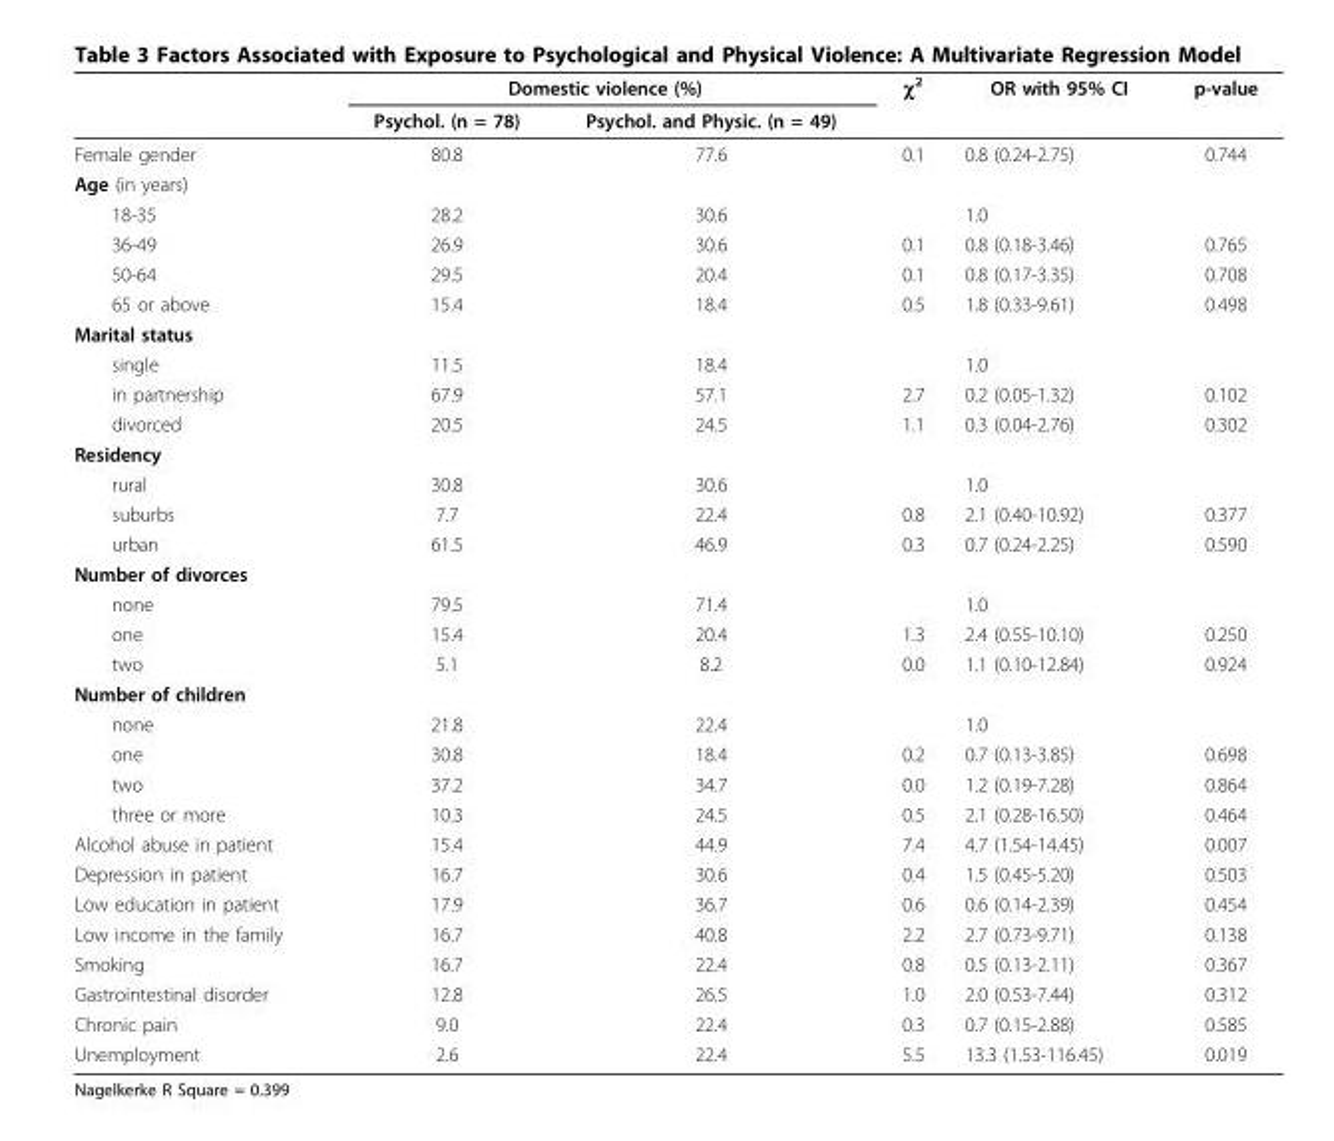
<table><thead><tr><td rowspan="2"></td><td colspan="2">Domestic violence (%)</td><td rowspan="2">χ<sup>2</sup></td><td rowspan="2">OR with 95% CI</td><td rowspan="2">p-value</td></tr><tr><td>Psychol. (n = 78)</td><td>Psychol. and Physic. (n = 49)</td></tr></thead><tbody><tr><td>Female gender</td><td>80.8</td><td>77.6</td><td>0.1</td><td>0.8 (0.24-2.75)</td><td>0.744</td></tr><tr><td colspan="6">Age (in years)</td></tr><tr><td>18-35</td><td>28.2</td><td>30.6</td><td></td><td>1.0</td><td></td></tr><tr><td>36-49</td><td>26.9</td><td>30.6</td><td>0.1</td><td>0.8 (0.18-3.46)</td><td>0.765</td></tr><tr><td>50-64</td><td>29.5</td><td>20.4</td><td>0.1</td><td>0.8 (0.17-3.35)</td><td>0.708</td></tr><tr><td>65 or above</td><td>15.4</td><td>18.4</td><td>0.5</td><td>1.8 (0.33-9.61)</td><td>0.498</td></tr><tr><td colspan="6">Marital status</td></tr><tr><td>single</td><td>11.5</td><td>18.4</td><td></td><td>1.0</td><td></td></tr><tr><td>in partnership</td><td>67.9</td><td>57.1</td><td>2.7</td><td>0.2 (0.05-1.32)</td><td>0.102</td></tr><tr><td>divorced</td><td>20.5</td><td>24.5</td><td>1.1</td><td>0.3 (0.04-2.76)</td><td>0.302</td></tr><tr><td colspan="6">Residency</td></tr><tr><td>rural</td><td>30.8</td><td>30.6</td><td></td><td>1.0</td><td></td></tr><tr><td>suburbs</td><td>7.7</td><td>22.4</td><td>0.8</td><td>2.1 (0.40-10.92)</td><td>0.377</td></tr><tr><td>urban</td><td>61.5</td><td>46.9</td><td>0.3</td><td>0.7 (0.24-2.25)</td><td>0.590</td></tr><tr><td colspan="6">Number of divorces</td></tr><tr><td>none</td><td>79.5</td><td>71.4</td><td></td><td>1.0</td><td></td></tr><tr><td>one</td><td>15.4</td><td>20.4</td><td>1.3</td><td>2.4 (0.55-10.10)</td><td>0.250</td></tr><tr><td>two</td><td>5.1</td><td>8.2</td><td>0.0</td><td>1.1 (0.10-12.84)</td><td>0.924</td></tr><tr><td colspan="6">Number of children</td></tr><tr><td>none</td><td>21.8</td><td>22.4</td><td></td><td>1.0</td><td></td></tr><tr><td>one</td><td>30.8</td><td>18.4</td><td>0.2</td><td>0.7 (0.13-3.85)</td><td>0.698</td></tr><tr><td>two</td><td>37.2</td><td>34.7</td><td>0.0</td><td>1.2 (0.19-7.28)</td><td>0.864</td></tr><tr><td>three or more</td><td>10.3</td><td>24.5</td><td>0.5</td><td>2.1 (0.28-16.50)</td><td>0.464</td></tr><tr><td>Alcohol abuse in patient</td><td>15.4</td><td>44.9</td><td>7.4</td><td>4.7 (1.54-14.45)</td><td>0.007</td></tr><tr><td>Depression in patient</td><td>16.7</td><td>30.6</td><td>0.4</td><td>1.5 (0.45-5.20)</td><td>0.503</td></tr><tr><td>Low education in patient</td><td>17.9</td><td>36.7</td><td>0.6</td><td>0.6 (0.14-2.39)</td><td>0.454</td></tr><tr><td>Low income in the family</td><td>16.7</td><td>40.8</td><td>2.2</td><td>2.7 (0.73-9.71)</td><td>0.138</td></tr><tr><td>Smoking</td><td>16.7</td><td>22.4</td><td>0.8</td><td>0.5 (0.13-2.11)</td><td>0.367</td></tr><tr><td>Gastrointestinal disorder</td><td>12.8</td><td>26.5</td><td>1.0</td><td>2.0 (0.53-7.44)</td><td>0.312</td></tr><tr><td>Chronic pain</td><td>9.0</td><td>22.4</td><td>0.3</td><td>0.7 (0.15-2.88)</td><td>0.585</td></tr><tr><td>Unemployment</td><td>2.6</td><td>22.4</td><td>5.5</td><td>13.3 (1.53-116.45)</td><td>0.019</td></tr></tbody></table>